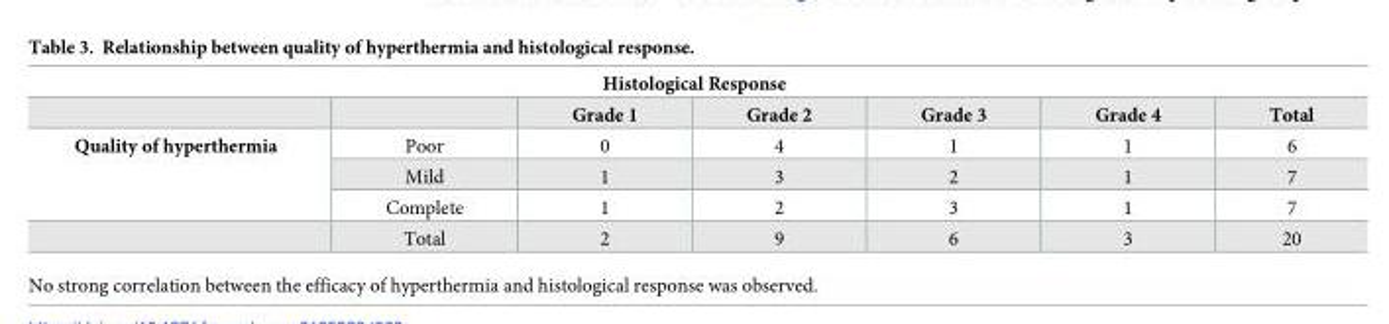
<table><thead><tr><td colspan="7">Histological Response</td></tr><tr><td></td><td></td><td>Grade 1</td><td>Grade 2</td><td>Grade 3</td><td>Grade 4</td><td>Total</td></tr></thead><tbody><tr><td rowspan="4">Quality of hyperthermia</td><td>Poor</td><td>0</td><td>4</td><td>1</td><td>1</td><td>6</td></tr><tr><td>Mild</td><td>1</td><td>3</td><td>2</td><td>1</td><td>7</td></tr><tr><td>Complete</td><td>1</td><td>2</td><td>3</td><td>1</td><td>7</td></tr><tr><td>Total</td><td>2</td><td>9</td><td>6</td><td>3</td><td>20</td></tr></tbody></table>